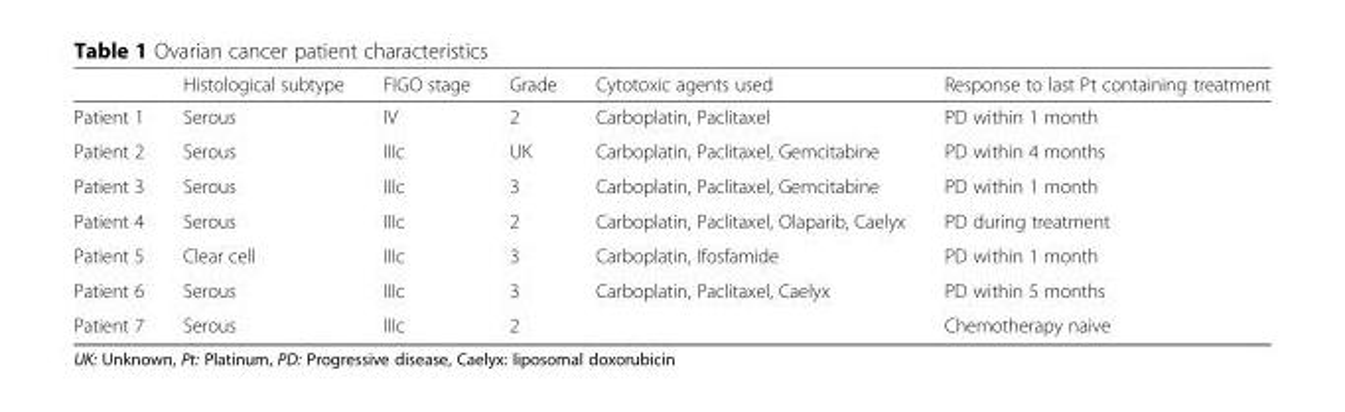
<table><thead><tr><td></td><td>Histological subtype</td><td>FIGO stage</td><td>Grade</td><td>Cytotoxic agents used</td><td>Response to last Pt containing treatment</td></tr></thead><tbody><tr><td>Patient 1</td><td>Serous</td><td>IV</td><td>2</td><td>Carboplatin, Paclitaxel</td><td>PD within 1 month</td></tr><tr><td>Patient 2</td><td>Serous</td><td>IIIc</td><td>UK</td><td>Carboplatin, Paclitaxel, Gemcitabine</td><td>PD within 4 months</td></tr><tr><td>Patient 3</td><td>Serous</td><td>IIIc</td><td>3</td><td>Carboplatin, Paclitaxel, Gemcitabine</td><td>PD within 1 month</td></tr><tr><td>Patient 4</td><td>Serous</td><td>IIIc</td><td>2</td><td>Carboplatin, Paclitaxel, Olaparib, Caelyx</td><td>PD during treatment</td></tr><tr><td>Patient 5</td><td>Clear cell</td><td>IIIc</td><td>3</td><td>Carboplatin, Ifosfamide</td><td>PD within 1 month</td></tr><tr><td>Patient 6</td><td>Serous</td><td>IIIc</td><td>3</td><td>Carboplatin, Paclitaxel, Caelyx</td><td>PD within 5 months</td></tr><tr><td>Patient 7</td><td>Serous</td><td>IIIc</td><td>2</td><td></td><td>Chemotherapy naive</td></tr></tbody></table>